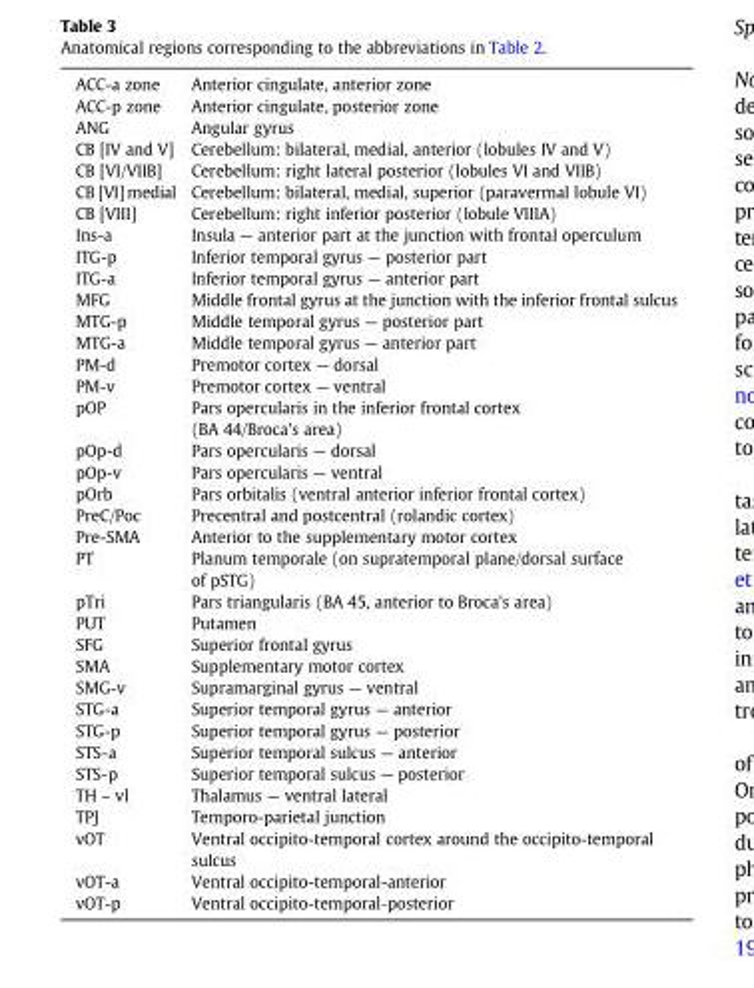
<table><tbody><tr><td>ACC-a zone</td><td>Anterior cingulate, anterior zone</td></tr><tr><td>ACC-p zone</td><td>Anterior cingulate, posterior zone</td></tr><tr><td>ANG</td><td>Angular gyrus</td></tr><tr><td>CB [IV and V]</td><td>Cerebellum: bilateral, medial, anterior (lobules IV and V)</td></tr><tr><td>CB [VI/VIIB]</td><td>Cerebellum: right lateral posterior (lobules VI and VIIB)</td></tr><tr><td>CB [VI] medial</td><td>Cerebellum: bilateral, medial, superior (paravermal lobule VI)</td></tr><tr><td>CB [VIII]</td><td>Cerebellum: right inferior posterior (lobule VIIIA)</td></tr><tr><td>Ins-a</td><td>Insula — anterior part at the junction with frontal operculum</td></tr><tr><td>ITG-p</td><td>Inferior temporal gyrus — posterior part</td></tr><tr><td>ITG-a</td><td>Inferior temporal gyrus — anterior part</td></tr><tr><td>MFG</td><td>Middle frontal gyrus at the junction with the inferior frontal sulcus</td></tr><tr><td>MTG-p</td><td>Middle temporal gyrus — posterior part</td></tr><tr><td>MTG-a</td><td>Middle temporal gyrus — anterior part</td></tr><tr><td>PM-d</td><td>Premotor cortex — dorsal</td></tr><tr><td>PM-v</td><td>Premotor cortex — ventral</td></tr><tr><td>pOP</td><td>Pars opercularis in the inferior frontal cortex (BA 44/Broca&#x27;s area)</td></tr><tr><td>pOp-d</td><td>Pars opercularis — dorsal</td></tr><tr><td>pOp-v</td><td>Pars opercularis — ventral</td></tr><tr><td>pOrb</td><td>Pars orbitalis (ventral anterior inferior frontal cortex)</td></tr><tr><td>PreC/Poc</td><td>Precentral and postcentral (rolandic cortex)</td></tr><tr><td>Pre-SMA</td><td>Anterior to the supplementary motor cortex</td></tr><tr><td>PT</td><td>Planum temporale (on supratemporal plane/dorsal surface of pSTG)</td></tr><tr><td>pTri</td><td>Pars triangularis (BA 45, anterior to Broca&#x27;s area)</td></tr><tr><td>PUT</td><td>Putamen</td></tr><tr><td>SFG</td><td>Superior frontal gyrus</td></tr><tr><td>SMA</td><td>Supplementary motor cortex</td></tr><tr><td>SMG-v</td><td>Supramarginal gyrus — ventral</td></tr><tr><td>STG-a</td><td>Superior temporal gyrus — anterior</td></tr><tr><td>STG-p</td><td>Superior temporal gyrus — posterior</td></tr><tr><td>STS-a</td><td>Superior temporal sulcus — anterior</td></tr><tr><td>STS-p</td><td>Superior temporal sulcus — posterior</td></tr><tr><td>TH – vl</td><td>Thalamus — ventral lateral</td></tr><tr><td>TPJ</td><td>Temporo-parietal junction</td></tr><tr><td>vOT</td><td>Ventral occipito-temporal cortex around the occipito-temporal sulcus</td></tr><tr><td>vOT-a</td><td>Ventral occipito-temporal-anterior</td></tr><tr><td>vOT-p</td><td>Ventral occipito-temporal‐posterior</td></tr></tbody></table>